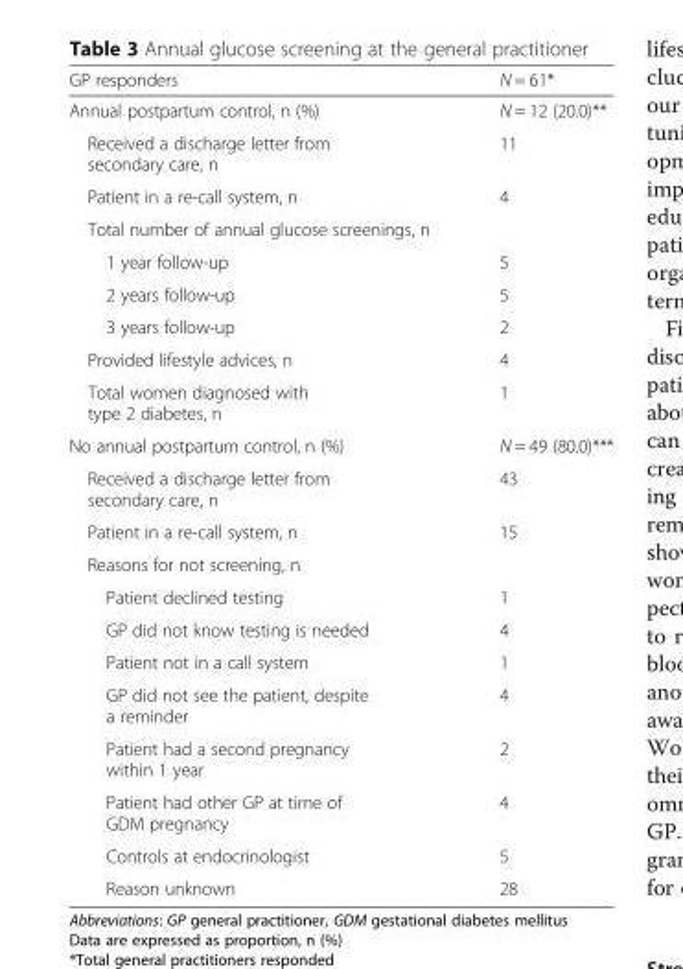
<table><thead><tr><td>GP responders</td><td>N = 61*</td></tr></thead><tbody><tr><td>Annual postpartum control, n (%)</td><td>N = 12 (20.0)**</td></tr><tr><td>Received a discharge letter from secondary care, n</td><td>11</td></tr><tr><td>Patient in a re-call system, n</td><td>4</td></tr><tr><td colspan="2">Total number of annual glucose screenings, n</td></tr><tr><td>1 year follow-up</td><td>5</td></tr><tr><td>2 years follow-up</td><td>5</td></tr><tr><td>3 years follow-up</td><td>2</td></tr><tr><td>Provided lifestyle advices, n</td><td>4</td></tr><tr><td>Total women diagnosed with type 2 diabetes, n</td><td>1</td></tr><tr><td>No annual postpartum control, n (%)</td><td>N = 49 (80.0)***</td></tr><tr><td>Received a discharge letter from secondary care, n</td><td>43</td></tr><tr><td>Patient in a re-call system, n</td><td>15</td></tr><tr><td colspan="2">Reasons for not screening, n</td></tr><tr><td>Patient declined testing</td><td>1</td></tr><tr><td>GP did not know testing is needed</td><td>4</td></tr><tr><td>Patient not in a call system</td><td>1</td></tr><tr><td>GP did not see the patient, despite a reminder</td><td>4</td></tr><tr><td>Patient had a second pregnancy within 1 year</td><td>2</td></tr><tr><td>Patient had other GP at time of GDM pregnancy</td><td>4</td></tr><tr><td>Controls at endocrinologist</td><td>5</td></tr><tr><td>Reason unknown</td><td>28</td></tr></tbody></table>